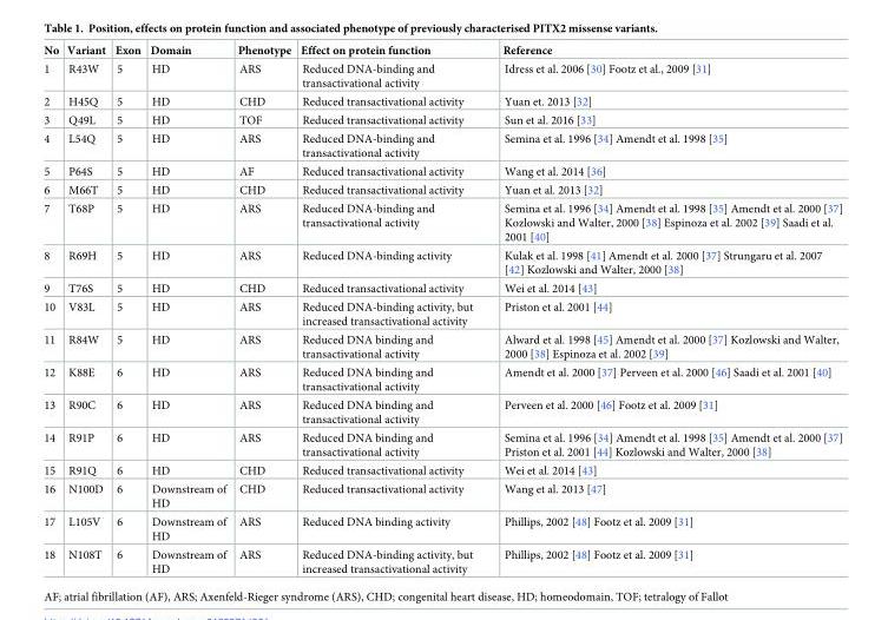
<table><thead><tr><td>No</td><td>Variant</td><td>Exon</td><td>Domain</td><td>Phenotype</td><td>Effect on protein function</td><td>Reference</td></tr></thead><tbody><tr><td>1</td><td>R43W</td><td>5</td><td>HD</td><td>ARS</td><td>Reduced DNA-binding and transactivational activity</td><td>Idress et al. 2006 [30] Footz et al., 2009 [31]</td></tr><tr><td>2</td><td>H45Q</td><td>5</td><td>HD</td><td>CHD</td><td>Reduced transactivational activity</td><td>Yuan et. 2013 [32]</td></tr><tr><td>3</td><td>Q49L</td><td>5</td><td>HD</td><td>TOF</td><td>Reduced transactivational activity</td><td>Sun et al. 2016 [33]</td></tr><tr><td>4</td><td>L54Q</td><td>5</td><td>HD</td><td>ARS</td><td>Reduced DNA-binding and transactivational activity</td><td>Semina et al. 1996 [34] Amendt et al. 1998 [35]</td></tr><tr><td>5</td><td>P64S</td><td>5</td><td>HD</td><td>AF</td><td>Reduced transactivational activity</td><td>Wang et al. 2014 [36]</td></tr><tr><td>6</td><td>M66T</td><td>5</td><td>HD</td><td>CHD</td><td>Reduced transactivational activity</td><td>Yuan et al. 2013 [32]</td></tr><tr><td>7</td><td>T68P</td><td>5</td><td>HD</td><td>ARS</td><td>Reduced DNA-binding and transactivational activity</td><td>Semina et al. 1996 [34] Amendt et al. 1998 [35] Amendt et al. 2000 [37] Kozlowski and Walter, 2000 [38] Espinoza et al. 2002 [39] Saadi et al. 2001 [40]</td></tr><tr><td>8</td><td>R69H</td><td>5</td><td>HD</td><td>ARS</td><td>Reduced DNA-binding activity</td><td>Kulak et al. 1998 [41] Amendt et al. 2000 [37] Strungaru et al. 2007 [42] Kozlowski and Walter, 2000 [38]</td></tr><tr><td>9</td><td>T76S</td><td>5</td><td>HD</td><td>CHD</td><td>Reduced transactivational activity</td><td>Wei et al. 2014 [43]</td></tr><tr><td>10</td><td>V83L</td><td>5</td><td>HD</td><td>ARS</td><td>Reduced DNA-binding activity, but increased transactivational activity</td><td>Priston et al. 2001 [44]</td></tr><tr><td>11</td><td>R84W</td><td>5</td><td>HD</td><td>ARS</td><td>Reduced DNA binding and transactivational activity</td><td>Alward et al. 1998 [45] Amendt et al. 2000 [37] Kozlowski and Walter, 2000 [38] Espinoza et al. 2002 [39]</td></tr><tr><td>12</td><td>K88E</td><td>6</td><td>HD</td><td>ARS</td><td>Reduced DNA binding and transactivational activity</td><td>Amendt et al. 2000 [37] Perveen et al. 2000 [46] Saadi et al. 2001 [40]</td></tr><tr><td>13</td><td>R90C</td><td>6</td><td>HD</td><td>ARS</td><td>Reduced DNA binding and transactivational activity</td><td>Perveen et al. 2000 [46] Footz et al. 2009 [31]</td></tr><tr><td>14</td><td>R91P</td><td>6</td><td>HD</td><td>ARS</td><td>Reduced DNA binding and transactivational activity</td><td>Semina et al. 1996 [34] Amendt et al. 1998 [35] Amendt et al. 2000 [37] Priston et al. 2001 [44] Kozlowski and Walter, 2000 [38]</td></tr><tr><td>15</td><td>R91Q</td><td>6</td><td>HD</td><td>CHD</td><td>Reduced transactivational activity</td><td>Wei et al. 2014 [43]</td></tr><tr><td>16</td><td>N100D</td><td>6</td><td>Downstream of HD</td><td>CHD</td><td>Reduced transactivational activity</td><td>Wang et al. 2013 [47]</td></tr><tr><td>17</td><td>L105V</td><td>6</td><td>Downstream of HD</td><td>ARS</td><td>Reduced DNA binding activity</td><td>Phillips, 2002 [48] Footz et al. 2009 [31]</td></tr><tr><td>18</td><td>N108T</td><td>6</td><td>Downstream of HD</td><td>ARS</td><td>Reduced DNA-binding activity, but increased transactivational activity</td><td>Phillips, 2002 [48] Footz et al. 2009 [31]</td></tr></tbody></table>